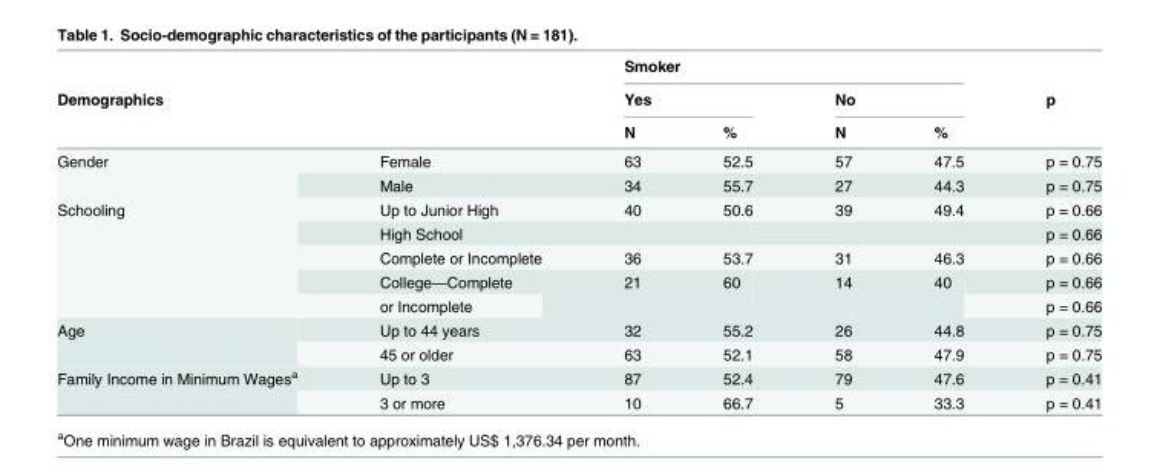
<table><thead><tr><td></td><td></td><td colspan="4">Smoker</td><td rowspan="3">p</td></tr><tr><td rowspan="2" colspan="2">Demographics</td><td colspan="2">Yes</td><td colspan="2">No</td></tr><tr><td>N</td><td>%</td><td>N</td><td>%</td></tr></thead><tbody><tr><td rowspan="2">Gender</td><td>Female</td><td>63</td><td>52.5</td><td>57</td><td>47.5</td><td>p = 0.75</td></tr><tr><td>Male</td><td>34</td><td>55.7</td><td>27</td><td>44.3</td><td>p = 0.75</td></tr><tr><td rowspan="5">Schooling</td><td>Up to Junior High</td><td>40</td><td>50.6</td><td>39</td><td>49.4</td><td>p = 0.66</td></tr><tr><td>High School</td><td></td><td></td><td></td><td></td><td>p = 0.66</td></tr><tr><td>Complete or Incomplete</td><td>36</td><td>53.7</td><td>31</td><td>46.3</td><td>p = 0.66</td></tr><tr><td>College—Complete</td><td rowspan="2">21</td><td rowspan="2">60</td><td rowspan="2">14</td><td rowspan="2">40</td><td>p = 0.66</td></tr><tr><td>or Incomplete</td><td>p = 0.66</td></tr><tr><td rowspan="2">Age</td><td>Up to 44 years</td><td>32</td><td>55.2</td><td>26</td><td>44.8</td><td>p = 0.75</td></tr><tr><td>45 or older</td><td>63</td><td>52.1</td><td>58</td><td>47.9</td><td>p = 0.75</td></tr><tr><td rowspan="2">Family Income in Minimum Wages<sup>a</sup></td><td>Up to 3</td><td>87</td><td>52.4</td><td>79</td><td>47.6</td><td>p = 0.41</td></tr><tr><td>3 or more</td><td>10</td><td>66.7</td><td>5</td><td>33.3</td><td>p = 0.41</td></tr></tbody></table>